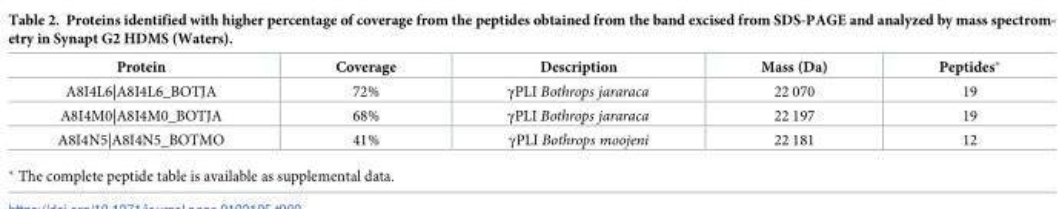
<table><thead><tr><td>Protein</td><td>Coverage</td><td>Description</td><td>Mass (Da)</td><td>Peptides*</td></tr></thead><tbody><tr><td>A8I4L6|A8I4L6_BOTJA</td><td>72%</td><td>γPLI Bothrops jararaca</td><td>22 070</td><td>19</td></tr><tr><td>A8I4M0|A8I4M0_BOTJA</td><td>68%</td><td>γPLI Bothrops jararaca</td><td>22 197</td><td>19</td></tr><tr><td>A8I4N5|A8I4N5_BOTMO</td><td>41%</td><td>γPLI Bothrops moojeni</td><td>22 181</td><td>12</td></tr></tbody></table>